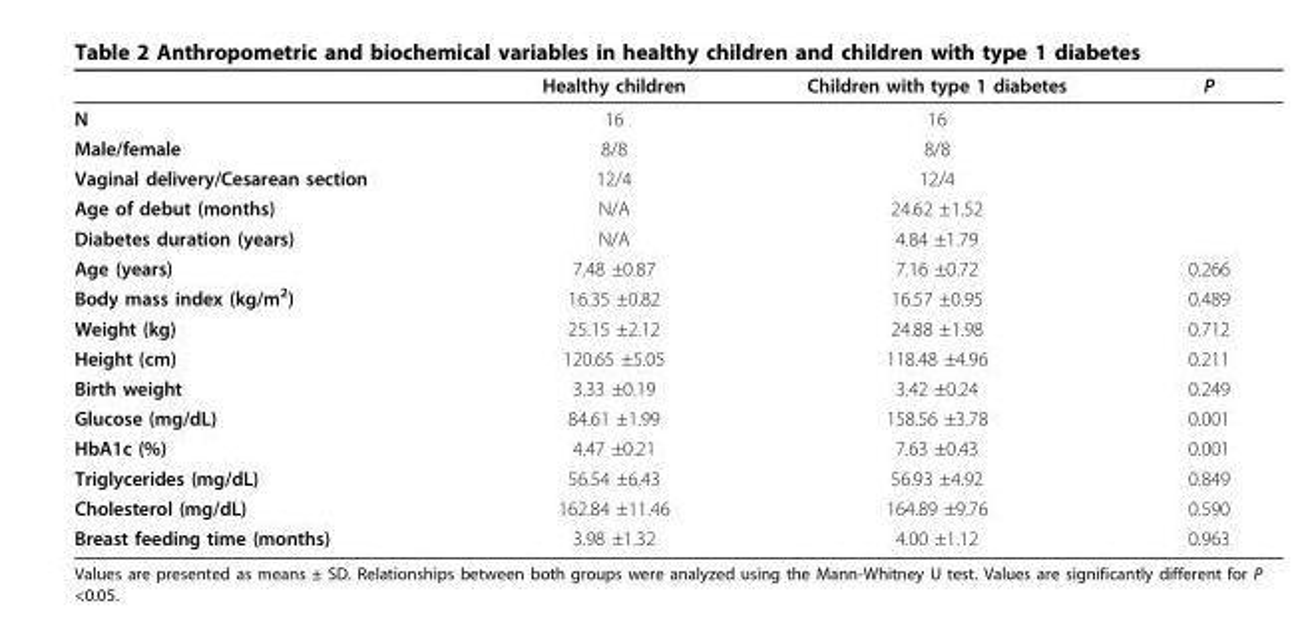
<table><thead><tr><td></td><td>Healthy children</td><td>Children with type 1 diabetes</td><td>P</td></tr></thead><tbody><tr><td>N</td><td>16</td><td>16</td><td></td></tr><tr><td>Male/female</td><td>8/8</td><td>8/8</td><td></td></tr><tr><td>Vaginal delivery/Cesarean section</td><td>12/4</td><td>12/4</td><td></td></tr><tr><td>Age of debut (months)</td><td>N/A</td><td>24.62 ±1.52</td><td></td></tr><tr><td>Diabetes duration (years)</td><td>N/A</td><td>4.84 ±1.79</td><td></td></tr><tr><td>Age (years)</td><td>7.48 ±0.87</td><td>7.16 ±0.72</td><td>0.266</td></tr><tr><td>Body mass index (kg/m<sup>2</sup>)</td><td>16.35 ±0.82</td><td>16.57 ±0.95</td><td>0.489</td></tr><tr><td>Weight (kg)</td><td>25.15 ±2.12</td><td>24.88 ±1.98</td><td>0.712</td></tr><tr><td>Height (cm)</td><td>120.65 ±5.05</td><td>118.48 ±4.96</td><td>0.211</td></tr><tr><td>Birth weight</td><td>3.33 ±0.19</td><td>3.42 ±0.24</td><td>0.249</td></tr><tr><td>Glucose (mg/dL)</td><td>84.61 ±1.99</td><td>158.56 ±3.78</td><td>0.001</td></tr><tr><td>HbA1c (%)</td><td>4.47 ±0.21</td><td>7.63 ±0.43</td><td>0.001</td></tr><tr><td>Triglycerides (mg/dL)</td><td>56.54 ±6.43</td><td>56.93 ±4.92</td><td>0.849</td></tr><tr><td>Cholesterol (mg/dL)</td><td>162.84 ±11.46</td><td>164.89 ±9.76</td><td>0.590</td></tr><tr><td>Breast feeding time (months)</td><td>3.98 ±1.32</td><td>4.00 ±1.12</td><td>0.963</td></tr></tbody></table>